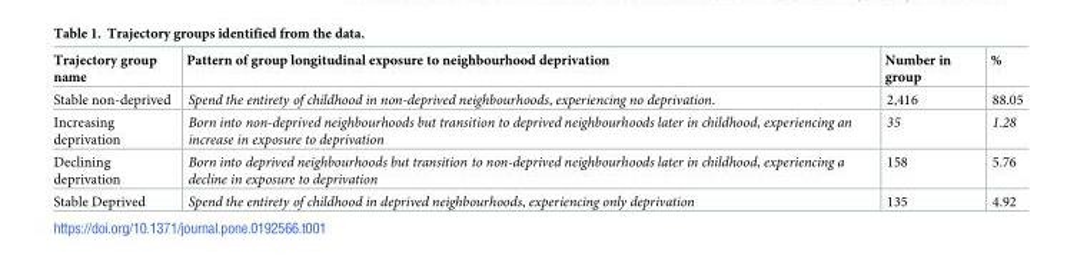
<table><thead><tr><td>Trajectory group name</td><td>Pattern of group longitudinal exposure to neighbourhood deprivation</td><td>Number in group</td><td>%</td></tr></thead><tbody><tr><td>Stable non-deprived</td><td>Spend the entirety of childhood in non-deprived neighbourhoods, experiencing no deprivation.</td><td>2,416</td><td>88.05</td></tr><tr><td>Increasing deprivation</td><td>Born into non-deprived neighbourhoods but transition to deprived neighbourhoods later in childhood, experiencing an increase in exposure to deprivation</td><td>35</td><td>1.28</td></tr><tr><td>Declining deprivation</td><td>Born into deprived neighbourhoods but transition to non-deprived neighbourhoods later in childhood, experiencing a decline in exposure to deprivation</td><td>158</td><td>5.76</td></tr><tr><td>Stable Deprived</td><td>Spend the entirety of childhood in deprived neighbourhoods, experiencing only deprivation</td><td>135</td><td>4.92</td></tr></tbody></table>